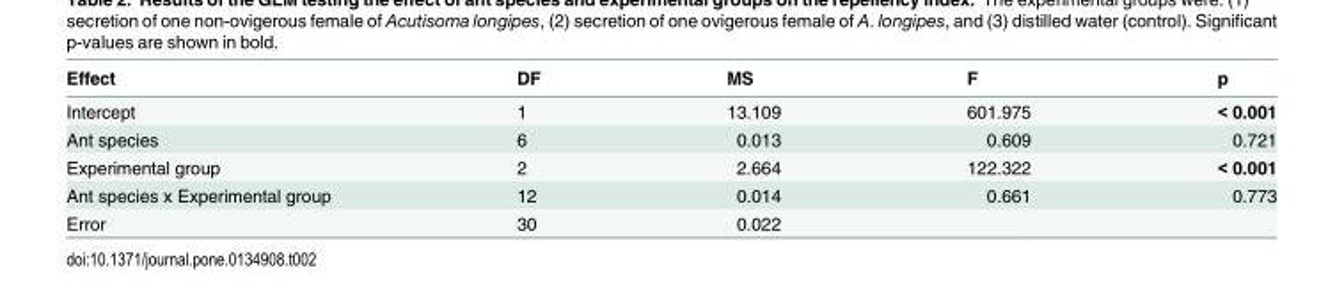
<table><thead><tr><td>Effect</td><td>DF</td><td>MS</td><td>F</td><td>p</td></tr></thead><tbody><tr><td>Intercept</td><td>1</td><td>13.109</td><td>601.975</td><td>&lt; 0.001</td></tr><tr><td>Ant species</td><td>6</td><td>0.013</td><td>0.609</td><td>0.721</td></tr><tr><td>Experimental group</td><td>2</td><td>2.664</td><td>122.322</td><td>&lt; 0.001</td></tr><tr><td>Ant species x Experimental group</td><td>12</td><td>0.014</td><td>0.661</td><td>0.773</td></tr><tr><td>Error</td><td>30</td><td>0.022</td><td></td><td></td></tr></tbody></table>